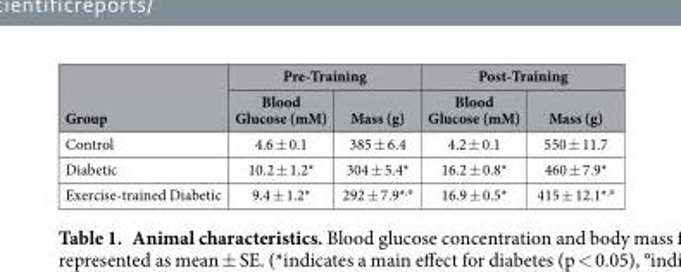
<table><thead><tr><td rowspan="2">Group</td><td colspan="2">Pre-Training</td><td colspan="2">Post-Training</td></tr><tr><td>Blood Glucose (mM)</td><td>Mass (g)</td><td>Blood Glucose (mM)</td><td>Mass (g)</td></tr></thead><tbody><tr><td>Control</td><td>4.6 ± 0.1</td><td>385 ± 6.4</td><td>4.2 ± 0.1</td><td>550 ± 11.7</td></tr><tr><td>Diabetic</td><td>10.2 ± 1.2*</td><td>304 ± 5.4*</td><td>16.2 ± 0.8*</td><td>460 ± 7.9*</td></tr><tr><td>Exercise-trained Diabetic</td><td>9.4 ± 1.2*</td><td>292 ± 7.9*<sup>,°</sup></td><td>16.9 ± 0.5*</td><td>415 ± 12.1*<sup>,°</sup></td></tr></tbody></table>